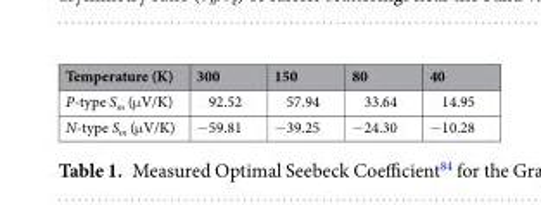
<table><thead><tr><td>Temperature (K)</td><td>300</td><td>150</td><td>80</td><td>40</td></tr></thead><tbody><tr><td>P-type S<sub>m</sub> (μV/K)</td><td>92.52</td><td>57.94</td><td>33.64</td><td>14.95</td></tr><tr><td>N-type S<sub>m</sub> (μV/K)</td><td>−59.81</td><td>−39.25</td><td>−24.30</td><td>−10.28</td></tr></tbody></table>